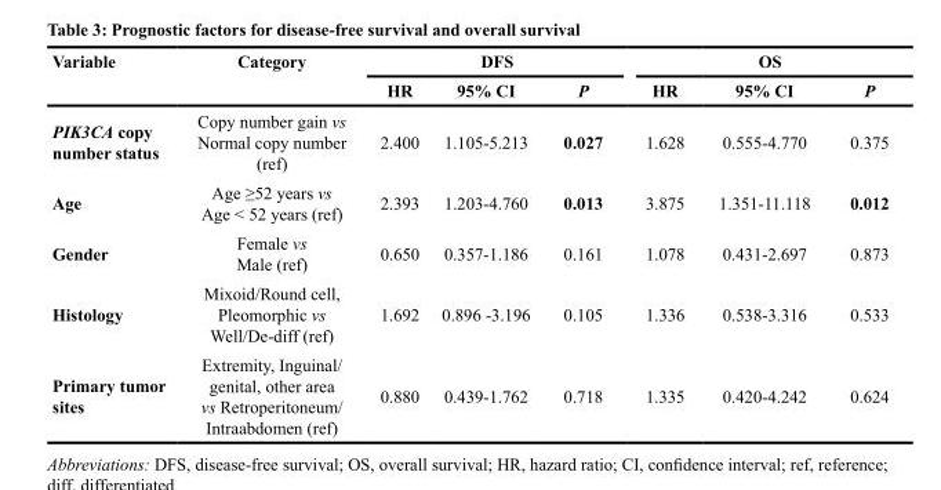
<table><thead><tr><td rowspan="2">Variable</td><td rowspan="2">Category</td><td colspan="3">DFS</td><td colspan="3">OS</td></tr><tr><td>HR</td><td>95% CI</td><td>P</td><td>HR</td><td>95% CI</td><td>P</td></tr></thead><tbody><tr><td>PIK3CA copy number status</td><td>Copy number gain vs Normal copy number (ref)</td><td>2.400</td><td>1.105-5.213</td><td>0.027</td><td>1.628</td><td>0.555-4.770</td><td>0.375</td></tr><tr><td>Age</td><td>Age ≥52 years vs Age &lt; 52 years (ref)</td><td>2.393</td><td>1.203-4.760</td><td>0.013</td><td>3.875</td><td>1.351-11.118</td><td>0.012</td></tr><tr><td>Gender</td><td>Female vs Male (ref)</td><td>0.650</td><td>0.357-1.186</td><td>0.161</td><td>1.078</td><td>0.431-2.697</td><td>0.873</td></tr><tr><td>Histology</td><td>Mixoid/Round cell, Pleomorphic vs Well/De-diff (ref)</td><td>1.692</td><td>0.896 -3.196</td><td>0.105</td><td>1.336</td><td>0.538-3.316</td><td>0.533</td></tr><tr><td>Primary tumor sites</td><td>Extremity, Inguinal/ genital, other area vs Retroperitoneum/ Intraabdomen (ref)</td><td>0.880</td><td>0.439-1.762</td><td>0.718</td><td>1.335</td><td>0.420-4.242</td><td>0.624</td></tr></tbody></table>